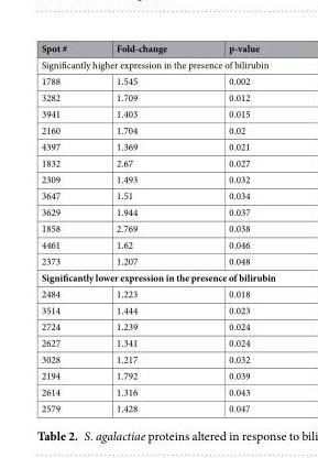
<table><thead><tr><td>Spot #</td><td>Fold-change</td><td>p-value</td></tr></thead><tbody><tr><td colspan="3">Significantly higher expression in the presence of bilirubin</td></tr><tr><td>1788</td><td>1.545</td><td>0.002</td></tr><tr><td>3282</td><td>1.709</td><td>0.012</td></tr><tr><td>3941</td><td>1.403</td><td>0.015</td></tr><tr><td>2160</td><td>1.704</td><td>0.02</td></tr><tr><td>4397</td><td>1.369</td><td>0.021</td></tr><tr><td>1832</td><td>2.67</td><td>0.027</td></tr><tr><td>2309</td><td>1.493</td><td>0.032</td></tr><tr><td>3647</td><td>1.51</td><td>0.034</td></tr><tr><td>3629</td><td>1.944</td><td>0.037</td></tr><tr><td>1858</td><td>2.769</td><td>0.038</td></tr><tr><td>4461</td><td>1.62</td><td>0.046</td></tr><tr><td>2373</td><td>1.207</td><td>0.048</td></tr><tr><td colspan="3">Significantly lower expression in the presence of bilirubin</td></tr><tr><td>2484</td><td>1.223</td><td>0.018</td></tr><tr><td>3514</td><td>1.444</td><td>0.023</td></tr><tr><td>2724</td><td>1.239</td><td>0.024</td></tr><tr><td>2627</td><td>1.341</td><td>0.024</td></tr><tr><td>3028</td><td>1.217</td><td>0.032</td></tr><tr><td>2194</td><td>1.792</td><td>0.039</td></tr><tr><td>2614</td><td>1.316</td><td>0.043</td></tr><tr><td>2579</td><td>1.428</td><td>0.047</td></tr></tbody></table>